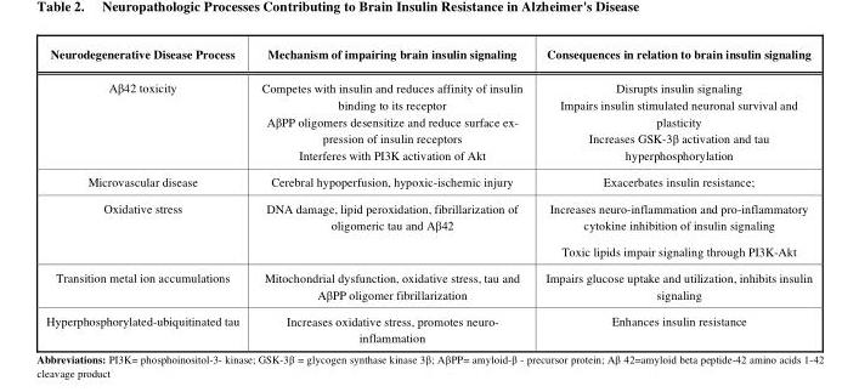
<table><thead><tr><td>Neurodegenerative Disease Process</td><td>Mechanism of impairing brain insulin signaling</td><td>Consequences in relation to brain insulin signaling</td></tr></thead><tbody><tr><td>Aβ42 toxicity</td><td>Competes with insulin and reduces affinity of insulin binding to its receptor A�PP oligomers desensitize and reduce surface ex- pression of insulin receptors Interferes with PI3K activation of Akt</td><td>Disrupts insulin signaling Impairs insulin stimulated neuronal survival and plasticity Increases GSK-3β activation and tau hyperphosphorylation</td></tr><tr><td>Microvascular disease</td><td>Cerebral hypoperfusion, hypoxic-ischemic injury</td><td>Exacerbates insulin resistance;</td></tr><tr><td>Oxidative stress</td><td>DNA damage, lipid peroxidation, fibrillarization of oligomeric tau and Aβ42</td><td>Increases neuro-inflammation and pro-inflammatory cytokine inhibition of insulin signaling Toxic lipids impair signaling through PI3K-Akt</td></tr><tr><td>Transition metal ion accumulations</td><td>Mitochondrial dysfunction, oxidative stress, tau and AβPP oligomer fibrillarization</td><td>Impairs glucose uptake and utilization, inhibits insulin signaling</td></tr><tr><td>Hyperphosphorylated-ubiquitinated tau</td><td>Increases oxidative stress, promotes neuro- inflammation</td><td>Enhances insulin resistance</td></tr></tbody></table>